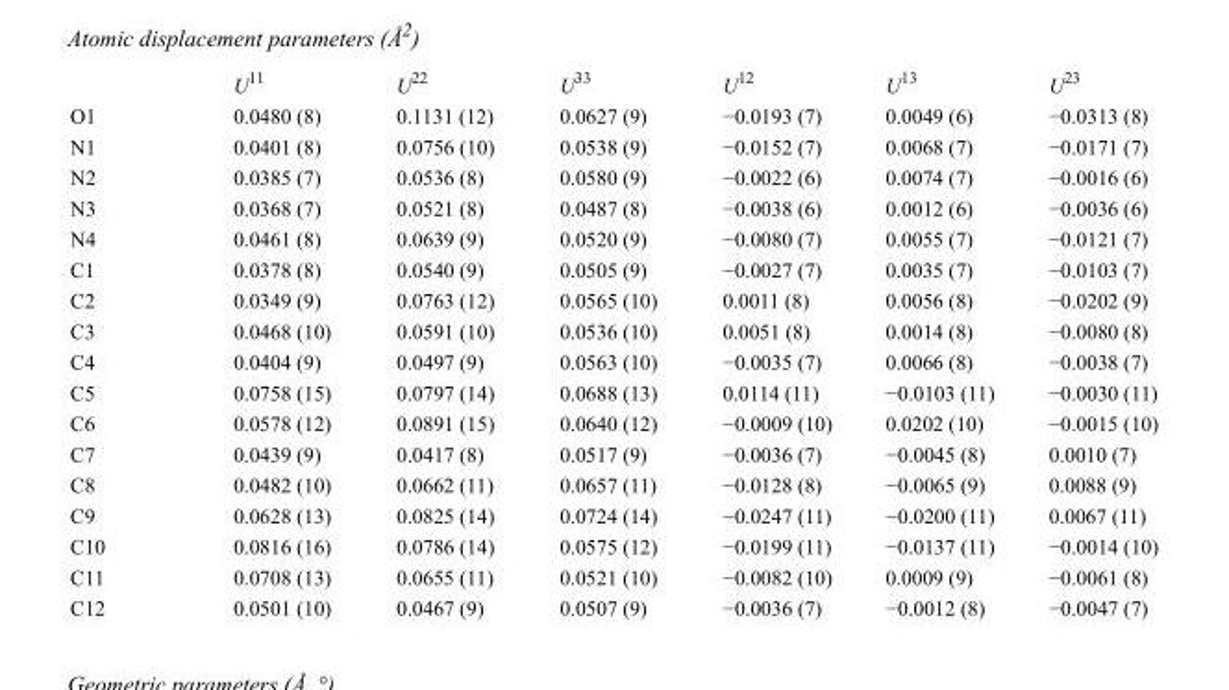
<table><thead><tr><td></td><td>U<sup>11</sup></td><td>U<sup>22</sup></td><td>U<sup>33</sup></td><td>U<sup>12</sup></td><td>U<sup>13</sup></td><td>U<sup>23</sup></td></tr></thead><tbody><tr><td>O1</td><td>0.0480 (8)</td><td>0.1131 (12)</td><td>0.0627 (9)</td><td>−0.0193 (7)</td><td>0.0049 (6)</td><td>−0.0313 (8)</td></tr><tr><td>N1</td><td>0.0401 (8)</td><td>0.0756 (10)</td><td>0.0538 (9)</td><td>−0.0152 (7)</td><td>0.0068 (7)</td><td>−0.0171 (7)</td></tr><tr><td>N2</td><td>0.0385 (7)</td><td>0.0536 (8)</td><td>0.0580 (9)</td><td>−0.0022 (6)</td><td>0.0074 (7)</td><td>−0.0016 (6)</td></tr><tr><td>N3</td><td>0.0368 (7)</td><td>0.0521 (8)</td><td>0.0487 (8)</td><td>−0.0038 (6)</td><td>0.0012 (6)</td><td>−0.0036 (6)</td></tr><tr><td>N4</td><td>0.0461 (8)</td><td>0.0639 (9)</td><td>0.0520 (9)</td><td>−0.0080 (7)</td><td>0.0055 (7)</td><td>−0.0121 (7)</td></tr><tr><td>C1</td><td>0.0378 (8)</td><td>0.0540 (9)</td><td>0.0505 (9)</td><td>−0.0027 (7)</td><td>0.0035 (7)</td><td>−0.0103 (7)</td></tr><tr><td>C2</td><td>0.0349 (9)</td><td>0.0763 (12)</td><td>0.0565 (10)</td><td>0.0011 (8)</td><td>0.0056 (8)</td><td>−0.0202 (9)</td></tr><tr><td>C3</td><td>0.0468 (10)</td><td>0.0591 (10)</td><td>0.0536 (10)</td><td>0.0051 (8)</td><td>0.0014 (8)</td><td>−0.0080 (8)</td></tr><tr><td>C4</td><td>0.0404 (9)</td><td>0.0497 (9)</td><td>0.0563 (10)</td><td>−0.0035 (7)</td><td>0.0066 (8)</td><td>−0.0038 (7)</td></tr><tr><td>C5</td><td>0.0758 (15)</td><td>0.0797 (14)</td><td>0.0688 (13)</td><td>0.0114 (11)</td><td>−0.0103 (11)</td><td>−0.0030 (11)</td></tr><tr><td>C6</td><td>0.0578 (12)</td><td>0.0891 (15)</td><td>0.0640 (12)</td><td>−0.0009 (10)</td><td>0.0202 (10)</td><td>−0.0015 (10)</td></tr><tr><td>C7</td><td>0.0439 (9)</td><td>0.0417 (8)</td><td>0.0517 (9)</td><td>−0.0036 (7)</td><td>−0.0045 (8)</td><td>0.0010 (7)</td></tr><tr><td>C8</td><td>0.0482 (10)</td><td>0.0662 (11)</td><td>0.0657 (11)</td><td>−0.0128 (8)</td><td>−0.0065 (9)</td><td>0.0088 (9)</td></tr><tr><td>C9</td><td>0.0628 (13)</td><td>0.0825 (14)</td><td>0.0724 (14)</td><td>−0.0247 (11)</td><td>−0.0200 (11)</td><td>0.0067 (11)</td></tr><tr><td>C10</td><td>0.0816 (16)</td><td>0.0786 (14)</td><td>0.0575 (12)</td><td>−0.0199 (11)</td><td>−0.0137 (11)</td><td>−0.0014 (10)</td></tr><tr><td>C11</td><td>0.0708 (13)</td><td>0.0655 (11)</td><td>0.0521 (10)</td><td>−0.0082 (10)</td><td>0.0009 (9)</td><td>−0.0061 (8)</td></tr><tr><td>C12</td><td>0.0501 (10)</td><td>0.0467 (9)</td><td>0.0507 (9)</td><td>−0.0036 (7)</td><td>−0.0012 (8)</td><td>−0.0047 (7)</td></tr></tbody></table>